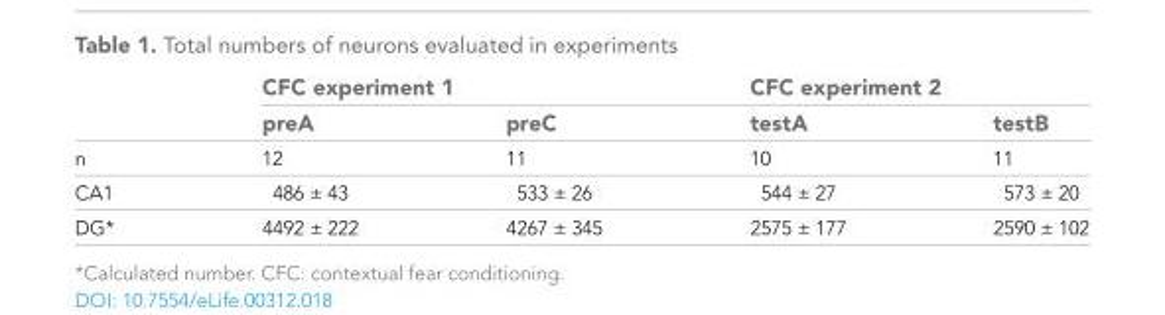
<table><thead><tr><td rowspan="2"></td><td colspan="2">CFC experiment 1</td><td colspan="2">CFC experiment 2</td></tr><tr><td>preA</td><td>preC</td><td>testA</td><td>testB</td></tr></thead><tbody><tr><td>n</td><td>12</td><td>11</td><td>10</td><td>11</td></tr><tr><td>CA1</td><td>486 ± 43</td><td>533 ± 26</td><td>544 ± 27</td><td>573 ± 20</td></tr><tr><td>DG*</td><td>4492 ± 222</td><td>4267 ± 345</td><td>2575 ± 177</td><td>2590 ± 102</td></tr></tbody></table>